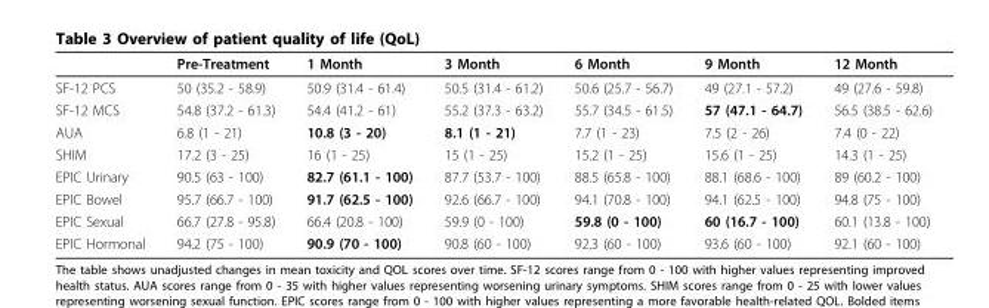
<table><thead><tr><td></td><td>Pre-Treatment</td><td>1 Month</td><td>3 Month</td><td>6 Month</td><td>9 Month</td><td>12 Month</td></tr></thead><tbody><tr><td>SF-12 PCS</td><td>50 (35.2 - 58.9)</td><td>50.9 (31.4 - 61.4)</td><td>50.5 (31.4 - 61.2)</td><td>50.6 (25.7 - 56.7)</td><td>49 (27.1 - 57.2)</td><td>49 (27.6 - 59.8)</td></tr><tr><td>SF-12 MCS</td><td>54.8 (37.2 - 61.3)</td><td>54.4 (41.2 - 61)</td><td>55.2 (37.3 - 63.2)</td><td>55.7 (34.5 - 61.5)</td><td>57 (47.1 - 64.7)</td><td>56.5 (38.5 - 62.6)</td></tr><tr><td>AUA</td><td>6.8 (1 - 21)</td><td>10.8 (3 - 20)</td><td>8.1 (1 - 21)</td><td>7.7 (1 - 23)</td><td>7.5 (2 - 26)</td><td>7.4 (0 - 22)</td></tr><tr><td>SHIM</td><td>17.2 (3 - 25)</td><td>16 (1 - 25)</td><td>15 (1 - 25)</td><td>15.2 (1 - 25)</td><td>15.6 (1 - 25)</td><td>14.3 (1 - 25)</td></tr><tr><td>EPIC Urinary</td><td>90.5 (63 - 100)</td><td>82.7 (61.1 - 100)</td><td>87.7 (53.7 - 100)</td><td>88.5 (65.8 - 100)</td><td>88.1 (68.6 - 100)</td><td>89 (60.2 - 100)</td></tr><tr><td>EPIC Bowel</td><td>95.7 (66.7 - 100)</td><td>91.7 (62.5 - 100)</td><td>92.6 (66.7 - 100)</td><td>94.1 (70.8 - 100)</td><td>94.1 (62.5 - 100)</td><td>94.8 (75 - 100)</td></tr><tr><td>EPIC Sexual</td><td>66.7 (27.8 - 95.8)</td><td>66.4 (20.8 - 100)</td><td>59.9 (0 - 100)</td><td>59.8 (0 - 100)</td><td>60 (16.7 - 100)</td><td>60.1 (13.8 - 100)</td></tr><tr><td>EPIC Hormonal</td><td>94.2 (75 - 100)</td><td>90.9 (70 - 100)</td><td>90.8 (60 - 100)</td><td>92.3 (60 - 100)</td><td>93.6 (60 - 100)</td><td>92.1 (60 - 100)</td></tr></tbody></table>